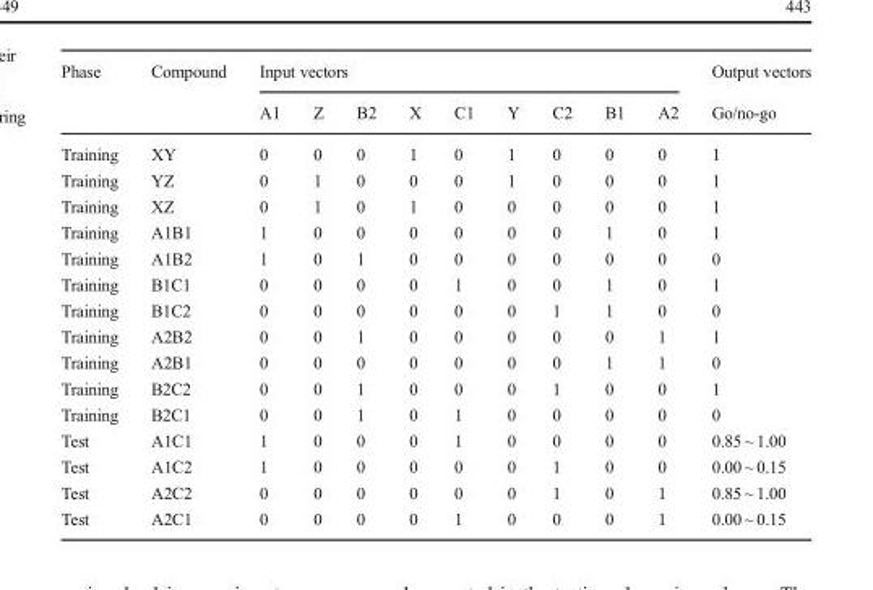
<table><thead><tr><td rowspan="2">Phase</td><td rowspan="2">Compound</td><td colspan="9">Input vectors</td><td rowspan="2">Output vectors Go/no-go</td></tr><tr><td>A1</td><td>Z</td><td>B2</td><td>X</td><td>C1</td><td>Y</td><td>C2</td><td>B1</td><td>A2</td></tr></thead><tbody><tr><td>Training</td><td>XY</td><td>0</td><td>0</td><td>0</td><td>1</td><td>0</td><td>1</td><td>0</td><td>0</td><td>0</td><td>1</td></tr><tr><td>Training</td><td>YZ</td><td>0</td><td>1</td><td>0</td><td>0</td><td>0</td><td>1</td><td>0</td><td>0</td><td>0</td><td>1</td></tr><tr><td>Training</td><td>XZ</td><td>0</td><td>1</td><td>0</td><td>1</td><td>0</td><td>0</td><td>0</td><td>0</td><td>0</td><td>1</td></tr><tr><td>Training</td><td>A1B1</td><td>1</td><td>0</td><td>0</td><td>0</td><td>0</td><td>0</td><td>0</td><td>1</td><td>0</td><td>1</td></tr><tr><td>Training</td><td>A1B2</td><td>1</td><td>0</td><td>1</td><td>0</td><td>0</td><td>0</td><td>0</td><td>0</td><td>0</td><td>0</td></tr><tr><td>Training</td><td>B1C1</td><td>0</td><td>0</td><td>0</td><td>0</td><td>1</td><td>0</td><td>0</td><td>1</td><td>0</td><td>1</td></tr><tr><td>Training</td><td>B1C2</td><td>0</td><td>0</td><td>0</td><td>0</td><td>0</td><td>0</td><td>1</td><td>1</td><td>0</td><td>0</td></tr><tr><td>Training</td><td>A2B2</td><td>0</td><td>0</td><td>1</td><td>0</td><td>0</td><td>0</td><td>0</td><td>0</td><td>1</td><td>1</td></tr><tr><td>Training</td><td>A2B1</td><td>0</td><td>0</td><td>0</td><td>0</td><td>0</td><td>0</td><td>0</td><td>1</td><td>1</td><td>0</td></tr><tr><td>Training</td><td>B2C2</td><td>0</td><td>0</td><td>1</td><td>0</td><td>0</td><td>0</td><td>1</td><td>0</td><td>0</td><td>1</td></tr><tr><td>Training</td><td>B2C1</td><td>0</td><td>0</td><td>1</td><td>0</td><td>1</td><td>0</td><td>0</td><td>0</td><td>0</td><td>0</td></tr><tr><td>Test</td><td>A1C1</td><td>1</td><td>0</td><td>0</td><td>0</td><td>1</td><td>0</td><td>0</td><td>0</td><td>0</td><td>0.85 ~ 1.00</td></tr><tr><td>Test</td><td>A1C2</td><td>1</td><td>0</td><td>0</td><td>0</td><td>0</td><td>0</td><td>1</td><td>0</td><td>0</td><td>0.00 ~ 0.15</td></tr><tr><td>Test</td><td>A2C2</td><td>0</td><td>0</td><td>0</td><td>0</td><td>0</td><td>0</td><td>1</td><td>0</td><td>1</td><td>0.85 ~ 1.00</td></tr><tr><td>Test</td><td>A2C1</td><td>0</td><td>0</td><td>0</td><td>0</td><td>1</td><td>0</td><td>0</td><td>0</td><td>1</td><td>0.00 ~ 0.15</td></tr></tbody></table>